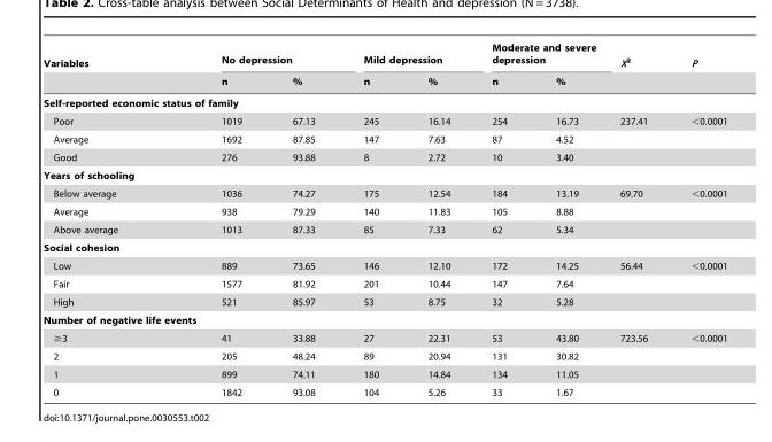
<table><thead><tr><td rowspan="2">Variables</td><td colspan="2">No depression</td><td colspan="2">Mild depression</td><td colspan="2">Moderate and severe depression</td><td rowspan="2">X<sup>2</sup></td><td rowspan="2">P</td></tr><tr><td>n</td><td>%</td><td>n</td><td>%</td><td>n</td><td>%</td></tr></thead><tbody><tr><td colspan="9">Self-reported economic status of family</td></tr><tr><td>Poor</td><td>1019</td><td>67.13</td><td>245</td><td>16.14</td><td>254</td><td>16.73</td><td>237.41</td><td>&lt;0.0001</td></tr><tr><td>Average</td><td>1692</td><td>87.85</td><td>147</td><td>7.63</td><td>87</td><td>4.52</td><td></td><td></td></tr><tr><td>Good</td><td>276</td><td>93.88</td><td>8</td><td>2.72</td><td>10</td><td>3.40</td><td></td><td></td></tr><tr><td colspan="9">Years of schooling</td></tr><tr><td>Below average</td><td>1036</td><td>74.27</td><td>175</td><td>12.54</td><td>184</td><td>13.19</td><td>69.70</td><td>&lt;0.0001</td></tr><tr><td>Average</td><td>938</td><td>79.29</td><td>140</td><td>11.83</td><td>105</td><td>8.88</td><td></td><td></td></tr><tr><td>Above average</td><td>1013</td><td>87.33</td><td>85</td><td>7.33</td><td>62</td><td>5.34</td><td></td><td></td></tr><tr><td colspan="9">Social cohesion</td></tr><tr><td>Low</td><td>889</td><td>73.65</td><td>146</td><td>12.10</td><td>172</td><td>14.25</td><td>56.44</td><td>&lt;0.0001</td></tr><tr><td>Fair</td><td>1577</td><td>81.92</td><td>201</td><td>10.44</td><td>147</td><td>7.64</td><td></td><td></td></tr><tr><td>High</td><td>521</td><td>85.97</td><td>53</td><td>8.75</td><td>32</td><td>5.28</td><td></td><td></td></tr><tr><td colspan="9">Number of negative life events</td></tr><tr><td>≥3</td><td>41</td><td>33.88</td><td>27</td><td>22.31</td><td>53</td><td>43.80</td><td>723.56</td><td>&lt;0.0001</td></tr><tr><td>2</td><td>205</td><td>48.24</td><td>89</td><td>20.94</td><td>131</td><td>30.82</td><td></td><td></td></tr><tr><td>1</td><td>899</td><td>74.11</td><td>180</td><td>14.84</td><td>134</td><td>11.05</td><td></td><td></td></tr><tr><td>0</td><td>1842</td><td>93.08</td><td>104</td><td>5.26</td><td>33</td><td>1.67</td><td></td><td></td></tr></tbody></table>